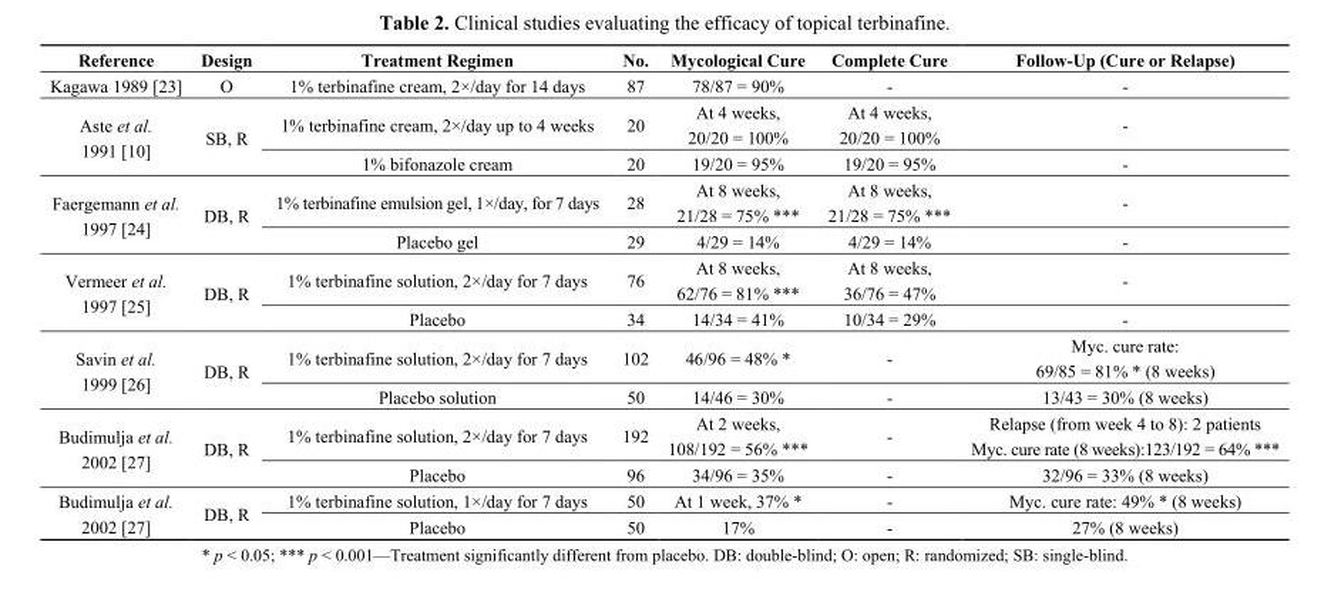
<table><thead><tr><td>Reference</td><td>Design</td><td>Treatment Regimen</td><td>No.</td><td>Mycological Cure</td><td>Complete Cure</td><td>Follow-Up (Cure or Relapse)</td></tr></thead><tbody><tr><td>Kagawa 1989 [23]</td><td>O</td><td>1% terbinafine cream, 2×/day for 14 days</td><td>87</td><td>78/87 = 90%</td><td>-</td><td>-</td></tr><tr><td rowspan="2">Aste et al. 1991 [10]</td><td rowspan="2">SB, R</td><td>1% terbinafine cream, 2×/day up to 4 weeks</td><td>20</td><td>At 4 weeks, 20/20 = 100%</td><td>At 4 weeks, 20/20 = 100%</td><td>-</td></tr><tr><td>1% bifonazole cream</td><td>20</td><td>19/20 = 95%</td><td>19/20 = 95%</td><td>-</td></tr><tr><td rowspan="2">Faergemann et al. 1997 [24]</td><td rowspan="2">DB, R</td><td>1% terbinafine emulsion gel, 1×/day, for 7 days</td><td>28</td><td>At 8 weeks, 21/28 = 75% ***</td><td>At 8 weeks, 21/28 = 75% ***</td><td>-</td></tr><tr><td>Placebo gel</td><td>29</td><td>4/29 = 14%</td><td>4/29 = 14%</td><td>-</td></tr><tr><td rowspan="2">Vermeer et al. 1997 [25]</td><td rowspan="2">DB, R</td><td>1% terbinafine solution, 2×/day for 7 days</td><td>76</td><td>At 8 weeks, 62/76 = 81% ***</td><td>At 8 weeks, 36/76 = 47%</td><td>-</td></tr><tr><td>Placebo</td><td>34</td><td>14/34 = 41%</td><td>10/34 = 29%</td><td>-</td></tr><tr><td rowspan="2">Savin et al. 1999 [26]</td><td rowspan="2">DB, R</td><td>1% terbinafine solution, 2×/day for 7 days</td><td>102</td><td>46/96 = 48% *</td><td>-</td><td>Myc. cure rate: 69/85 = 81% * (8 weeks)</td></tr><tr><td>Placebo solution</td><td>50</td><td>14/46 = 30%</td><td>-</td><td>13/43 = 30% (8 weeks)</td></tr><tr><td rowspan="2">Budimulja et al. 2002 [27]</td><td rowspan="2">DB, R</td><td>1% terbinafine solution, 2×/day for 7 days</td><td>192</td><td>At 2 weeks, 108/192 = 56% ***</td><td>-</td><td>Relapse (from week 4 to 8): 2 patients Myc. cure rate (8 weeks):123/192 = 64% ***</td></tr><tr><td>Placebo</td><td>96</td><td>34/96 = 35%</td><td>-</td><td>32/96 = 33% (8 weeks)</td></tr><tr><td rowspan="2">Budimulja et al. 2002 [27]</td><td rowspan="2">DB, R</td><td>1% terbinafine solution, 1×/day for 7 days</td><td>50</td><td>At 1 week, 37% *</td><td>-</td><td>Myc. cure rate: 49% * (8 weeks)</td></tr><tr><td>Placebo</td><td>50</td><td>17%</td><td>-</td><td>27% (8 weeks)</td></tr></tbody></table>